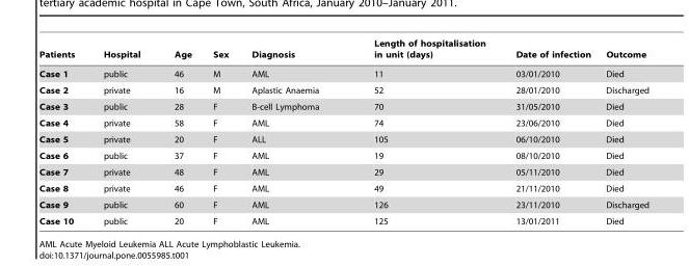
<table><thead><tr><td>Patients</td><td>Hospital</td><td>Age</td><td>Sex</td><td>Diagnosis</td><td>Length of hospitalisation in unit (days)</td><td>Date of infection</td><td>Outcome</td></tr></thead><tbody><tr><td>Case 1</td><td>public</td><td>46</td><td>M</td><td>AML</td><td>11</td><td>03/01/2010</td><td>Died</td></tr><tr><td>Case 2</td><td>private</td><td>16</td><td>M</td><td>Aplastic Anaemia</td><td>52</td><td>28/01/2010</td><td>Discharged</td></tr><tr><td>Case 3</td><td>public</td><td>28</td><td>F</td><td>B-cell Lymphoma</td><td>70</td><td>31/05/2010</td><td>Died</td></tr><tr><td>Case 4</td><td>private</td><td>58</td><td>F</td><td>AML</td><td>74</td><td>23/06/2010</td><td>Died</td></tr><tr><td>Case 5</td><td>private</td><td>20</td><td>F</td><td>ALL</td><td>105</td><td>06/10/2010</td><td>Died</td></tr><tr><td>Case 6</td><td>public</td><td>37</td><td>F</td><td>AML</td><td>19</td><td>08/10/2010</td><td>Died</td></tr><tr><td>Case 7</td><td>private</td><td>48</td><td>F</td><td>AML</td><td>29</td><td>05/11/2010</td><td>Died</td></tr><tr><td>Case 8</td><td>private</td><td>46</td><td>F</td><td>AML</td><td>49</td><td>21/11/2010</td><td>Died</td></tr><tr><td>Case 9</td><td>public</td><td>60</td><td>F</td><td>AML</td><td>126</td><td>23/11/2010</td><td>Discharged</td></tr><tr><td>Case 10</td><td>public</td><td>20</td><td>F</td><td>AML</td><td>125</td><td>13/01/2011</td><td>Died</td></tr></tbody></table>